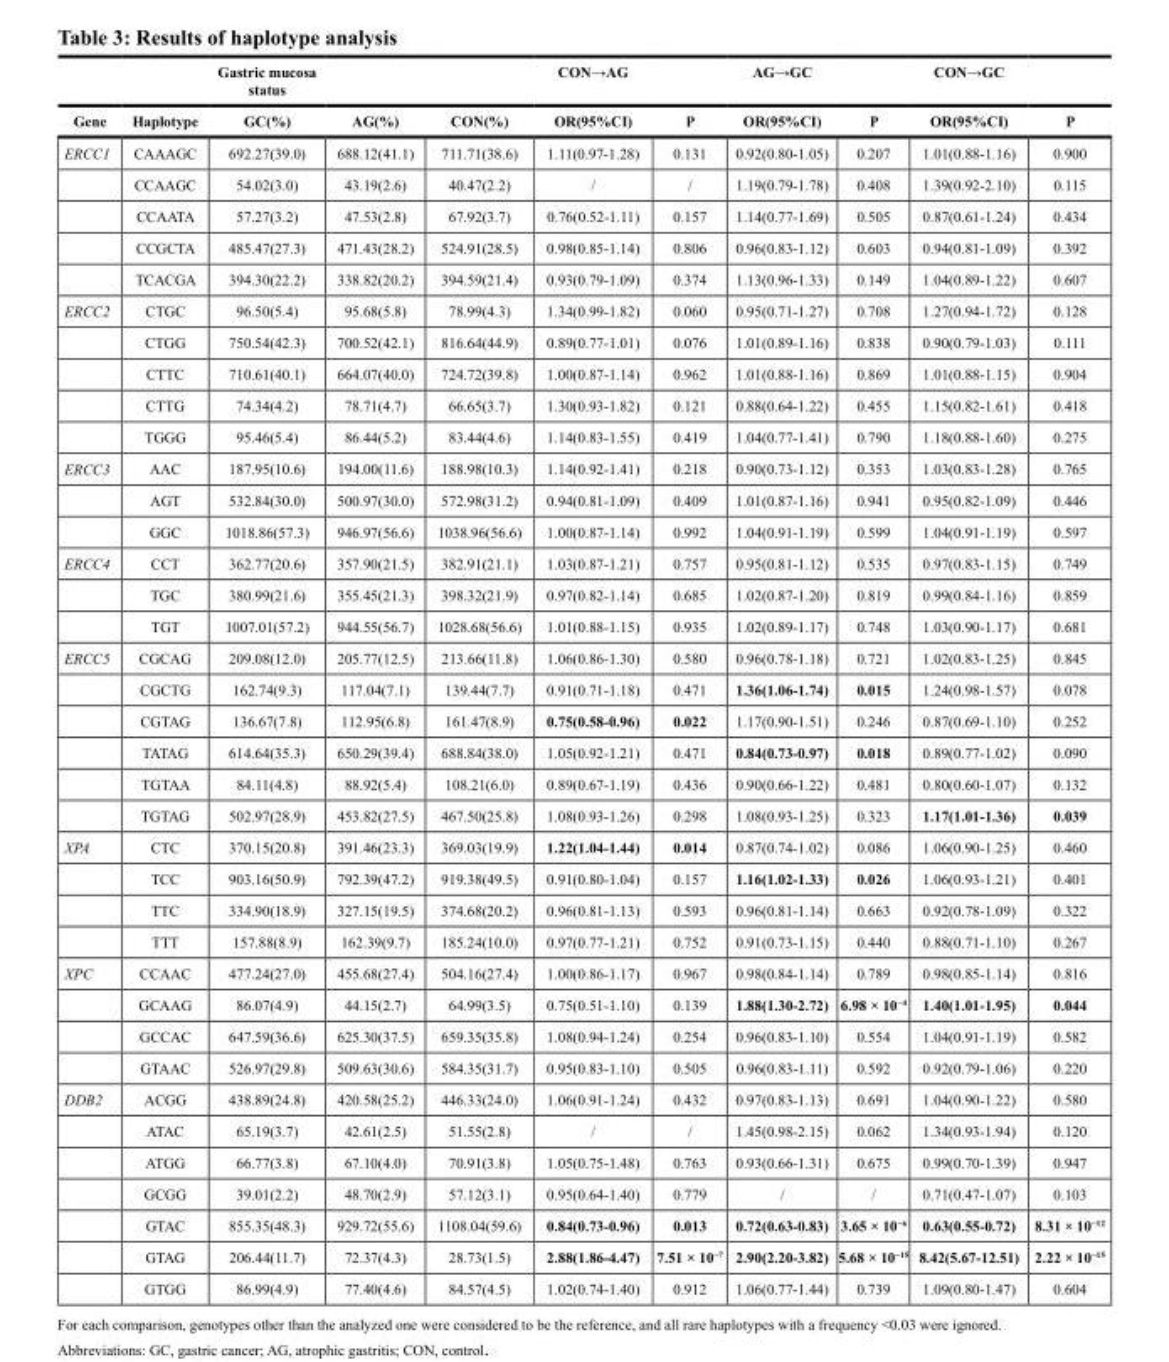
<table><thead><tr><td rowspan="2">Gene</td><td rowspan="2">Haplotype</td><td colspan="3">Gastric mucosa status</td><td colspan="2">CON→AG</td><td colspan="2">AG→GC</td><td colspan="2">CON→GC</td></tr><tr><td>GC(%)</td><td>AG(%)</td><td>CON(%)</td><td>OR(95%CI)</td><td>P</td><td>OR(95%CI)</td><td>P</td><td>OR(95%CI)</td><td>P</td></tr></thead><tbody><tr><td rowspan="5">ERCC1</td><td>CAAAGC</td><td>692.27(39.0)</td><td>688.12(41.1)</td><td>711.71(38.6)</td><td>1.11(0.97-1.28)</td><td>0.131</td><td>0.92(0.80-1.05)</td><td>0.207</td><td>1.01(0.88-1.16)</td><td>0.900</td></tr><tr><td>CCAAGC</td><td>54.02(3.0)</td><td>43.19(2.6)</td><td>40.47(2.2)</td><td>/</td><td>/</td><td>1.19(0.79-1.78)</td><td>0.408</td><td>1.39(0.92-2.10)</td><td>0.115</td></tr><tr><td>CCAATA</td><td>57.27(3.2)</td><td>47.53(2.8)</td><td>67.92(3.7)</td><td>0.76(0.52-1.11)</td><td>0.157</td><td>1.14(0.77-1.69)</td><td>0.505</td><td>0.87(0.61-1.24)</td><td>0.434</td></tr><tr><td>CCGCTA</td><td>485.47(27.3)</td><td>471.43(28.2)</td><td>524.91(28.5)</td><td>0.98(0.85-1.14)</td><td>0.806</td><td>0.96(0.83-1.12)</td><td>0.603</td><td>0.94(0.81-1.09)</td><td>0.392</td></tr><tr><td>TCACGA</td><td>394.30(22.2)</td><td>338.82(20.2)</td><td>394.59(21.4)</td><td>0.93(0.79-1.09)</td><td>0.374</td><td>1.13(0.96-1.33)</td><td>0.149</td><td>1.04(0.89-1.22)</td><td>0.607</td></tr><tr><td rowspan="5">ERCC2</td><td>CTGC</td><td>96.50(5.4)</td><td>95.68(5.8)</td><td>78.99(4.3)</td><td>1.34(0.99-1.82)</td><td>0.060</td><td>0.95(0.71-1.27)</td><td>0.708</td><td>1.27(0.94-1.72)</td><td>0.128</td></tr><tr><td>CTGG</td><td>750.54(42.3)</td><td>700.52(42.1)</td><td>816.64(44.9)</td><td>0.89(0.77-1.01)</td><td>0.076</td><td>1.01(0.89-1.16)</td><td>0.838</td><td>0.90(0.79-1.03)</td><td>0.111</td></tr><tr><td>CTTC</td><td>710.61(40.1)</td><td>664.07(40.0)</td><td>724.72(39.8)</td><td>1.00(0.87-1.14)</td><td>0.962</td><td>1.01(0.88-1.16)</td><td>0.869</td><td>1.01(0.88-1.15)</td><td>0.904</td></tr><tr><td>CTTG</td><td>74.34(4.2)</td><td>78.71(4.7)</td><td>66.65(3.7)</td><td>1.30(0.93-1.82)</td><td>0.121</td><td>0.88(0.64-1.22)</td><td>0.455</td><td>1.15(0.82-1.61)</td><td>0.418</td></tr><tr><td>TGGG</td><td>95.46(5.4)</td><td>86.44(5.2)</td><td>83.44(4.6)</td><td>1.14(0.83-1.55)</td><td>0.419</td><td>1.04(0.77-1.41)</td><td>0.790</td><td>1.18(0.88-1.60)</td><td>0.275</td></tr><tr><td rowspan="3">ERCC3</td><td>AAC</td><td>187.95(10.6)</td><td>194.00(11.6)</td><td>188.98(10.3)</td><td>1.14(0.92-1.41)</td><td>0.218</td><td>0.90(0.73-1.12)</td><td>0.353</td><td>1.03(0.83-1.28)</td><td>0.765</td></tr><tr><td>AGT</td><td>532.84(30.0)</td><td>500.97(30.0)</td><td>572.98(31.2)</td><td>0.94(0.81-1.09)</td><td>0.409</td><td>1.01(0.87-1.16)</td><td>0.941</td><td>0.95(0.82-1.09)</td><td>0.446</td></tr><tr><td>GGC</td><td>1018.86(57.3)</td><td>946.97(56.6)</td><td>1038.96(56.6)</td><td>1.00(0.87-1.14)</td><td>0.992</td><td>1.04(0.91-1.19)</td><td>0.599</td><td>1.04(0.91-1.19)</td><td>0.597</td></tr><tr><td rowspan="3">ERCC4</td><td>CCT</td><td>362.77(20.6)</td><td>357.90(21.5)</td><td>382.91(21.1)</td><td>1.03(0.87-1.21)</td><td>0.757</td><td>0.95(0.81-1.12)</td><td>0.535</td><td>0.97(0.83-1.15)</td><td>0.749</td></tr><tr><td>TGC</td><td>380.99(21.6)</td><td>355.45(21.3)</td><td>398.32(21.9)</td><td>0.97(0.82-1.14)</td><td>0.685</td><td>1.02(0.87-1.20)</td><td>0.819</td><td>0.99(0.84-1.16)</td><td>0.859</td></tr><tr><td>TGT</td><td>1007.01(57.2)</td><td>944.55(56.7)</td><td>1028.68(56.6)</td><td>1.01(0.88-1.15)</td><td>0.935</td><td>1.02(0.89-1.17)</td><td>0.748</td><td>1.03(0.90-1.17)</td><td>0.681</td></tr><tr><td rowspan="6">ERCC5</td><td>CGCAG</td><td>209.08(12.0)</td><td>205.77(12.5)</td><td>213.66(11.8)</td><td>1.06(0.86-1.30)</td><td>0.580</td><td>0.96(0.78-1.18)</td><td>0.721</td><td>1.02(0.83-1.25)</td><td>0.845</td></tr><tr><td>CGCTG</td><td>162.74(9.3)</td><td>117.04(7.1)</td><td>139.44(7.7)</td><td>0.91(0.71-1.18)</td><td>0.471</td><td>1.36(1.06-1.74)</td><td>0.015</td><td>1.24(0.98-1.57)</td><td>0.078</td></tr><tr><td>CGTAG</td><td>136.67(7.8)</td><td>112.95(6.8)</td><td>161.47(8.9)</td><td>0.75(0.58-0.96)</td><td>0.022</td><td>1.17(0.90-1.51)</td><td>0.246</td><td>0.87(0.69-1.10)</td><td>0.252</td></tr><tr><td>TATAG</td><td>614.64(35.3)</td><td>650.29(39.4)</td><td>688.84(38.0)</td><td>1.05(0.92-1.21)</td><td>0.471</td><td>0.84(0.73-0.97)</td><td>0.018</td><td>0.89(0.77-1.02)</td><td>0.090</td></tr><tr><td>TGTAA</td><td>84.11(4.8)</td><td>88.92(5.4)</td><td>108.21(6.0)</td><td>0.89(0.67-1.19)</td><td>0.436</td><td>0.90(0.66-1.22)</td><td>0.481</td><td>0.80(0.60-1.07)</td><td>0.132</td></tr><tr><td>TGTAG</td><td>502.97(28.9)</td><td>453.82(27.5)</td><td>467.50(25.8)</td><td>1.08(0.93-1.26)</td><td>0.298</td><td>1.08(0.93-1.25)</td><td>0.323</td><td>1.17(1.01-1.36)</td><td>0.039</td></tr><tr><td rowspan="4">XPA</td><td>CTC</td><td>370.15(20.8)</td><td>391.46(23.3)</td><td>369.03(19.9)</td><td>1.22(1.04-1.44)</td><td>0.014</td><td>0.87(0.74-1.02)</td><td>0.086</td><td>1.06(0.90-1.25)</td><td>0.460</td></tr><tr><td>TCC</td><td>903.16(50.9)</td><td>792.39(47.2)</td><td>919.38(49.5)</td><td>0.91(0.80-1.04)</td><td>0.157</td><td>1.16(1.02-1.33)</td><td>0.026</td><td>1.06(0.93-1.21)</td><td>0.401</td></tr><tr><td>TTC</td><td>334.90(18.9)</td><td>327.15(19.5)</td><td>374.68(20.2)</td><td>0.96(0.81-1.13)</td><td>0.593</td><td>0.96(0.81-1.14)</td><td>0.663</td><td>0.92(0.78-1.09)</td><td>0.322</td></tr><tr><td>TTT</td><td>157.88(8.9)</td><td>162.39(9.7)</td><td>185.24(10.0)</td><td>0.97(0.77-1.21)</td><td>0.752</td><td>0.91(0.73-1.15)</td><td>0.440</td><td>0.88(0.71-1.10)</td><td>0.267</td></tr><tr><td rowspan="4">XPC</td><td>CCAAC</td><td>477.24(27.0)</td><td>455.68(27.4)</td><td>504.16(27.4)</td><td>1.00(0.86-1.17)</td><td>0.967</td><td>0.98(0.84-1.14)</td><td>0.789</td><td>0.98(0.85-1.14)</td><td>0.816</td></tr><tr><td>GCAAG</td><td>86.07(4.9)</td><td>44.15(2.7)</td><td>64.99(3.5)</td><td>0.75(0.51-1.10)</td><td>0.139</td><td>1.88(1.30-2.72)</td><td>6.98 × 10<sup>−4</sup></td><td>1.40(1.01-1.95)</td><td>0.044</td></tr><tr><td>GCCAC</td><td>647.59(36.6)</td><td>625.30(37.5)</td><td>659.35(35.8)</td><td>1.08(0.94-1.24)</td><td>0.254</td><td>0.96(0.83-1.10)</td><td>0.554</td><td>1.04(0.91-1.19)</td><td>0.582</td></tr><tr><td>GTAAC</td><td>526.97(29.8)</td><td>509.63(30.6)</td><td>584.35(31.7)</td><td>0.95(0.83-1.10)</td><td>0.505</td><td>0.96(0.83-1.11)</td><td>0.592</td><td>0.92(0.79-1.06)</td><td>0.220</td></tr><tr><td rowspan="7">DDB2</td><td>ACGG</td><td>438.89(24.8)</td><td>420.58(25.2)</td><td>446.33(24.0)</td><td>1.06(0.91-1.24)</td><td>0.432</td><td>0.97(0.83-1.13)</td><td>0.691</td><td>1.04(0.90-1.22)</td><td>0.580</td></tr><tr><td>ATAC</td><td>65.19(3.7)</td><td>42.61(2.5)</td><td>51.55(2.8)</td><td>/</td><td>/</td><td>1.45(0.98-2.15)</td><td>0.062</td><td>1.34(0.93-1.94)</td><td>0.120</td></tr><tr><td>ATGG</td><td>66.77(3.8)</td><td>67.10(4.0)</td><td>70.91(3.8)</td><td>1.05(0.75-1.48)</td><td>0.763</td><td>0.93(0.66-1.31)</td><td>0.675</td><td>0.99(0.70-1.39)</td><td>0.947</td></tr><tr><td>GCGG</td><td>39.01(2.2)</td><td>48.70(2.9)</td><td>57.12(3.1)</td><td>0.95(0.64-1.40)</td><td>0.779</td><td>/</td><td>/</td><td>0.71(0.47-1.07)</td><td>0.103</td></tr><tr><td>GTAC</td><td>855.35(48.3)</td><td>929.72(55.6)</td><td>1108.04(59.6)</td><td>0.84(0.73-0.96)</td><td>0.013</td><td>0.72(0.63-0.83)</td><td>3.65 × 10<sup>−6</sup></td><td>0.63(0.55-0.72)</td><td>8.31 × 10<sup>−12</sup></td></tr><tr><td>GTAG</td><td>206.44(11.7)</td><td>72.37(4.3)</td><td>28.73(1.5)</td><td>2.88(1.86-4.47)</td><td>7.51 × 10<sup>−7</sup></td><td>2.90(2.20-3.82)</td><td>5.68 × 10<sup>−15</sup></td><td>8.42(5.67-12.51)</td><td>2.22 × 10<sup>−15</sup></td></tr><tr><td>GTGG</td><td>86.99(4.9)</td><td>77.40(4.6)</td><td>84.57(4.5)</td><td>1.02(0.74-1.40)</td><td>0.912</td><td>1.06(0.77-1.44)</td><td>0.739</td><td>1.09(0.80-1.47)</td><td>0.604</td></tr></tbody></table>